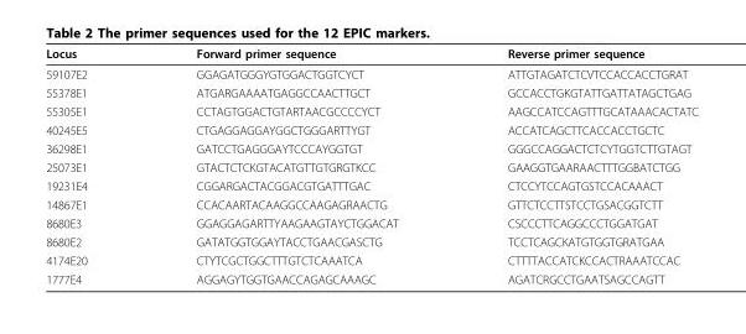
<table><thead><tr><td>Locus</td><td>Forward primer sequence</td><td>Reverse primer sequence</td></tr></thead><tbody><tr><td>59107E2</td><td>GGAGATGGGYGTGGACTGGTCYCT</td><td>ATTGTAGATCTCVTCCACCACCTGRAT</td></tr><tr><td>55378E1</td><td>ATGARGAAAATGAGGCCAACTTGCT</td><td>GCCACCTGKGTATTGATTATAGCTGAG</td></tr><tr><td>55305E1</td><td>CCTAGTGGACTGTARTAACGCCCCYCT</td><td>AAGCCATCCAGTTTGCATAAACACTATC</td></tr><tr><td>40245E5</td><td>CTGAGGAGGAYGGCTGGGARTTYGT</td><td>ACCATCAGCTTCACCACCTGCTC</td></tr><tr><td>36298E1</td><td>GATCCTGAGGGAYTCCCAYGGTGT</td><td>GGGCCAGGACTCTCYTGGTCTTGTAGT</td></tr><tr><td>25073E1</td><td>GTACTCTCKGTACATGTTGTGRGTKCC</td><td>GAAGGTGAARAACTTTGGBATCTGG</td></tr><tr><td>19231E4</td><td>CGGARGACTACGGACGTGATTTGAC</td><td>CTCCYTCCAGTGSTCCACAAACT</td></tr><tr><td>14867E1</td><td>CCACAARTACAAGGCCAAGAGRAACTG</td><td>GTTCTCCTTSTCCTGSACGGTCTT</td></tr><tr><td>8680E3</td><td>GGAGGAGARTTYAAGAAGTAYCTGGACAT</td><td>CSCCCTTCAGGCCCTGGATGAT</td></tr><tr><td>8680E2</td><td>GATATGGTGGAYTACCTGAACGASCTG</td><td>TCCTCAGCKATGTGGTGRATGAA</td></tr><tr><td>4174E20</td><td>CTYTCGCTGGCTTTGTCTCAAATCA</td><td>CTTTTACCATCKCCACTRAAATCCAC</td></tr><tr><td>1777E4</td><td>AGGAGYTGGTGAACCAGAGCAAAGC</td><td>AGATCRGCCTGAATSAGCCAGTT</td></tr></tbody></table>